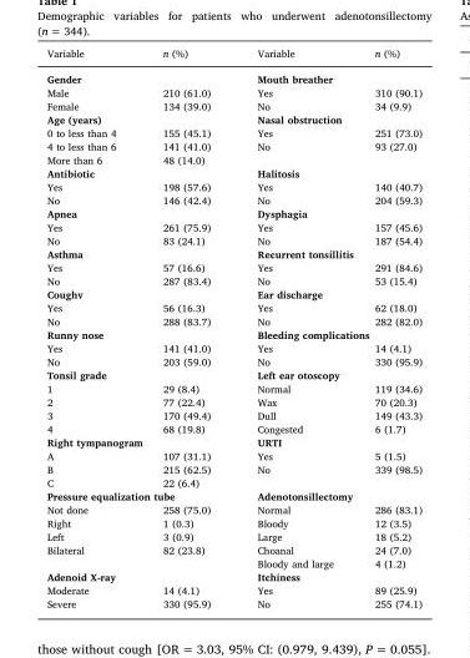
<table><thead><tr><td>Variable</td><td>n (%)</td><td>Variable</td><td>n (%)</td></tr></thead><tbody><tr><td colspan="2">Gender</td><td colspan="2">Mouth breather</td></tr><tr><td>Male</td><td>210 (61.0)</td><td>Yes</td><td>310 (90.1)</td></tr><tr><td>Female</td><td>134 (39.0)</td><td>No</td><td>34 (9.9)</td></tr><tr><td colspan="2">Age (years)</td><td colspan="2">Nasal obstruction</td></tr><tr><td>0 to less than 4</td><td>155 (45.1)</td><td>Yes</td><td>251 (73.0)</td></tr><tr><td>4 to less than 6</td><td>141 (41.0)</td><td rowspan="2">No</td><td rowspan="2">93 (27.0)</td></tr><tr><td>More than 6</td><td>48 (14.0)</td></tr><tr><td colspan="2">Antibiotic</td><td colspan="2">Halitosis</td></tr><tr><td>Yes</td><td>198 (57.6)</td><td>Yes</td><td>140 (40.7)</td></tr><tr><td>No</td><td>146 (42.4)</td><td>No</td><td>204 (59.3)</td></tr><tr><td colspan="2">Apnea</td><td colspan="2">Dysphagia</td></tr><tr><td>Yes</td><td>261 (75.9)</td><td>Yes</td><td>157 (45.6)</td></tr><tr><td>No</td><td>83 (24.1)</td><td>No</td><td>187 (54.4)</td></tr><tr><td colspan="2">Asthma</td><td colspan="2">Recurrent tonsillitis</td></tr><tr><td>Yes</td><td>57 (16.6)</td><td>Yes</td><td>291 (84.6)</td></tr><tr><td>No</td><td>287 (83.4)</td><td>No</td><td>53 (15.4)</td></tr><tr><td colspan="2">Coughv</td><td colspan="2">Ear discharge</td></tr><tr><td>Yes</td><td>56 (16.3)</td><td>Yes</td><td>62 (18.0)</td></tr><tr><td>No</td><td>288 (83.7)</td><td>No</td><td>282 (82.0)</td></tr><tr><td colspan="2">Runny nose</td><td colspan="2">Bleeding complications</td></tr><tr><td>Yes</td><td>141 (41.0)</td><td>Yes</td><td>14 (4.1)</td></tr><tr><td>No</td><td>203 (59.0)</td><td>No</td><td>330 (95.9)</td></tr><tr><td colspan="2">Tonsil grade</td><td colspan="2">Left ear otoscopy</td></tr><tr><td>1</td><td>29 (8.4)</td><td>Normal</td><td>119 (34.6)</td></tr><tr><td>2</td><td>77 (22.4)</td><td>Wax</td><td>70 (20.3)</td></tr><tr><td>3</td><td>170 (49.4)</td><td>Dull</td><td>149 (43.3)</td></tr><tr><td>4</td><td>68 (19.8)</td><td>Congested</td><td>6 (1.7)</td></tr><tr><td colspan="2">Right tympanogram</td><td colspan="2">URTI</td></tr><tr><td>A</td><td>107 (31.1)</td><td>Yes</td><td>5 (1.5)</td></tr><tr><td>B</td><td>215 (62.5)</td><td rowspan="2">No</td><td rowspan="2">339 (98.5)</td></tr><tr><td>C</td><td>22 (6.4)</td></tr><tr><td colspan="2">Pressure equalization tube</td><td colspan="2">Adenotonsillectomy</td></tr><tr><td>Not done</td><td>258 (75.0)</td><td>Normal</td><td>286 (83.1)</td></tr><tr><td>Right</td><td>1 (0.3)</td><td>Bloody</td><td>12 (3.5)</td></tr><tr><td>Left</td><td>3 (0.9)</td><td>Large</td><td>18 (5.2)</td></tr><tr><td rowspan="2">Bilateral</td><td rowspan="2">82 (23.8)</td><td>Choanal</td><td>24 (7.0)</td></tr><tr><td>Bloody and large</td><td>4 (1.2)</td></tr><tr><td colspan="2">Adenoid X-ray</td><td colspan="2">Itchiness</td></tr><tr><td>Moderate</td><td>14 (4.1)</td><td>Yes</td><td>89 (25.9)</td></tr><tr><td>Severe</td><td>330 (95.9)</td><td>No</td><td>255 (74.1)</td></tr></tbody></table>